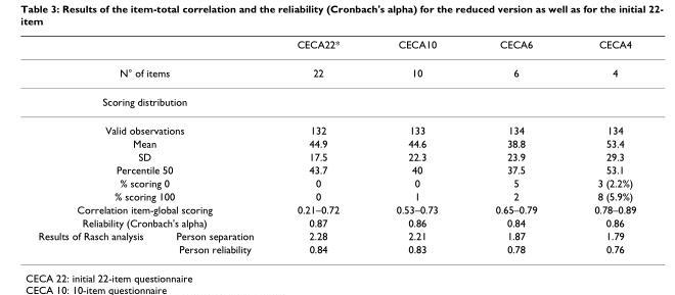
<table><thead><tr><td></td><td></td><td>CECA22*</td><td>CECA10</td><td>CECA6</td><td>CECA4</td></tr></thead><tbody><tr><td colspan="2">N° of items</td><td>22</td><td>10</td><td>6</td><td>4</td></tr><tr><td colspan="6">Scoring distribution</td></tr><tr><td colspan="2">Valid observations</td><td>132</td><td>133</td><td>134</td><td>134</td></tr><tr><td colspan="2">Mean</td><td>44.9</td><td>44.6</td><td>38.8</td><td>53.4</td></tr><tr><td colspan="2">SD</td><td>17.5</td><td>22.3</td><td>23.9</td><td>29.3</td></tr><tr><td colspan="2">Percentile 50</td><td>43.7</td><td>40</td><td>37.5</td><td>53.1</td></tr><tr><td colspan="2">% scoring 0</td><td>0</td><td>0</td><td>5</td><td>3 (2.2%)</td></tr><tr><td colspan="2">% scoring 100</td><td>0</td><td>1</td><td>2</td><td>8 (5.9%)</td></tr><tr><td colspan="2">Correlation item-global scoring</td><td>0.21–0.72</td><td>0.53–0.73</td><td>0.65–0.79</td><td>0.78–0.89</td></tr><tr><td colspan="2">Reliability (Cronbach&#x27;s alpha)</td><td>0.87</td><td>0.86</td><td>0.84</td><td>0.86</td></tr><tr><td rowspan="2">Results of Rasch analysis</td><td>Person separation</td><td>2.28</td><td>2.21</td><td>1.87</td><td>1.79</td></tr><tr><td>Person reliability</td><td>0.84</td><td>0.83</td><td>0.78</td><td>0.76</td></tr></tbody></table>